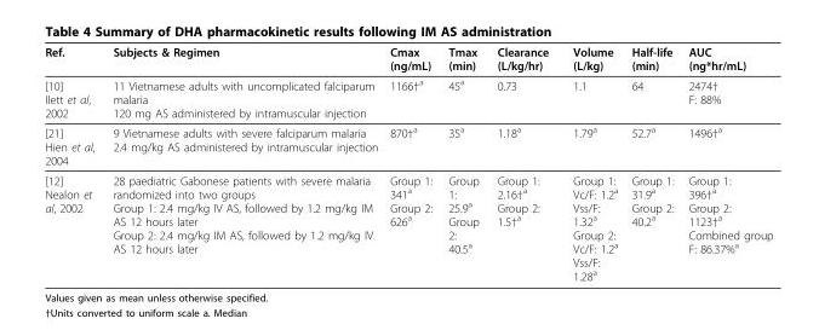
<table><thead><tr><td>Ref.</td><td>Subjects &amp; Regimen</td><td>Cmax (ng/mL)</td><td>Tmax (min)</td><td>Clearance (L/kg/hr)</td><td>Volume (L/kg)</td><td>Half-life (min)</td><td>AUC (ng*hr/mL)</td></tr></thead><tbody><tr><td>[10] Ilett et al, 2002</td><td>11 Vietnamese adults with uncomplicated falciparum malaria 120 mg AS administered by intramuscular injection</td><td>1166†<sup>a</sup></td><td>45<sup>a</sup></td><td>0.73</td><td>1.1</td><td>64</td><td>2474† F: 88%</td></tr><tr><td>[21] Hien et al, 2004</td><td>9 Vietnamese adults with severe falciparum malaria 2.4 mg/kg AS administered by intramuscular injection</td><td>870†<sup>a</sup></td><td>35<sup>a</sup></td><td>1.18<sup>a</sup></td><td>1.79<sup>a</sup></td><td>52.7<sup>a</sup></td><td>1496†<sup>a</sup></td></tr><tr><td>[12] Nealon et al, 2002</td><td>28 paediatric Gabonese patients with severe malaria randomized into two groups Group 1: 2.4 mg/kg IV AS, followed by 1.2 mg/kg IM AS 12 hours later Group 2: 2.4 mg/kg IM AS, followed by 1.2 mg/kg IV AS 12 hours later</td><td>Group 1: 341<sup>a</sup> Group 2: 626<sup>a</sup></td><td>Group 1: 25.9<sup>a</sup> Group 2: 40.5<sup>a</sup></td><td>Group 1: 2.16†<sup>a</sup> Group 2: 1.5†<sup>a</sup></td><td>Group 1: Vc/F: 1.2<sup>a</sup> Vss/F: 1.32<sup>a</sup> Group 2: Vc/F: 1.2<sup>a</sup> Vss/F: 1.28<sup>a</sup></td><td>Group 1: 31.9<sup>a</sup> Group 2: 40.2<sup>a</sup></td><td>Group 1: 396†<sup>a</sup> Group 2: 1123†<sup>a</sup> Combined group F: 86.37%<sup>a</sup></td></tr></tbody></table>